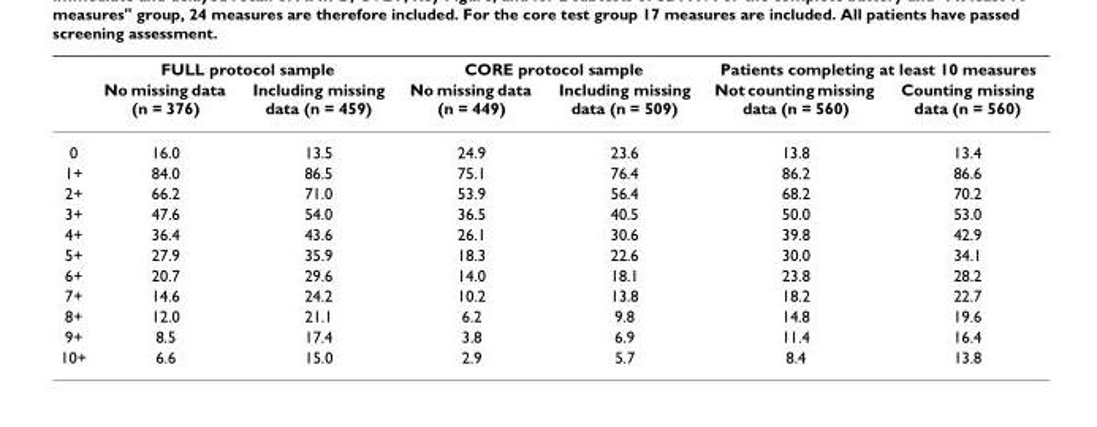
<table><thead><tr><td rowspan="2"></td><td colspan="2">FULL protocol sample</td><td colspan="2">CORE protocol sample</td><td colspan="2">Patients completing at least 10 measures</td></tr><tr><td>No missing data (n = 376)</td><td>Including missing data (n = 459)</td><td>No missing data (n = 449)</td><td>Including missing data (n = 509)</td><td>Not counting missing data (n = 560)</td><td>Counting missing data (n = 560)</td></tr></thead><tbody><tr><td>0</td><td>16.0</td><td>13.5</td><td>24.9</td><td>23.6</td><td>13.8</td><td>13.4</td></tr><tr><td>1+</td><td>84.0</td><td>86.5</td><td>75.1</td><td>76.4</td><td>86.2</td><td>86.6</td></tr><tr><td>2+</td><td>66.2</td><td>71.0</td><td>53.9</td><td>56.4</td><td>68.2</td><td>70.2</td></tr><tr><td>3+</td><td>47.6</td><td>54.0</td><td>36.5</td><td>40.5</td><td>50.0</td><td>53.0</td></tr><tr><td>4+</td><td>36.4</td><td>43.6</td><td>26.1</td><td>30.6</td><td>39.8</td><td>42.9</td></tr><tr><td>5+</td><td>27.9</td><td>35.9</td><td>18.3</td><td>22.6</td><td>30.0</td><td>34.1</td></tr><tr><td>6+</td><td>20.7</td><td>29.6</td><td>14.0</td><td>18.1</td><td>23.8</td><td>28.2</td></tr><tr><td>7+</td><td>14.6</td><td>24.2</td><td>10.2</td><td>13.8</td><td>18.2</td><td>22.7</td></tr><tr><td>8+</td><td>12.0</td><td>21.1</td><td>6.2</td><td>9.8</td><td>14.8</td><td>19.6</td></tr><tr><td>9+</td><td>8.5</td><td>17.4</td><td>3.8</td><td>6.9</td><td>11.4</td><td>16.4</td></tr><tr><td>10+</td><td>6.6</td><td>15.0</td><td>2.9</td><td>5.7</td><td>8.4</td><td>13.8</td></tr></tbody></table>